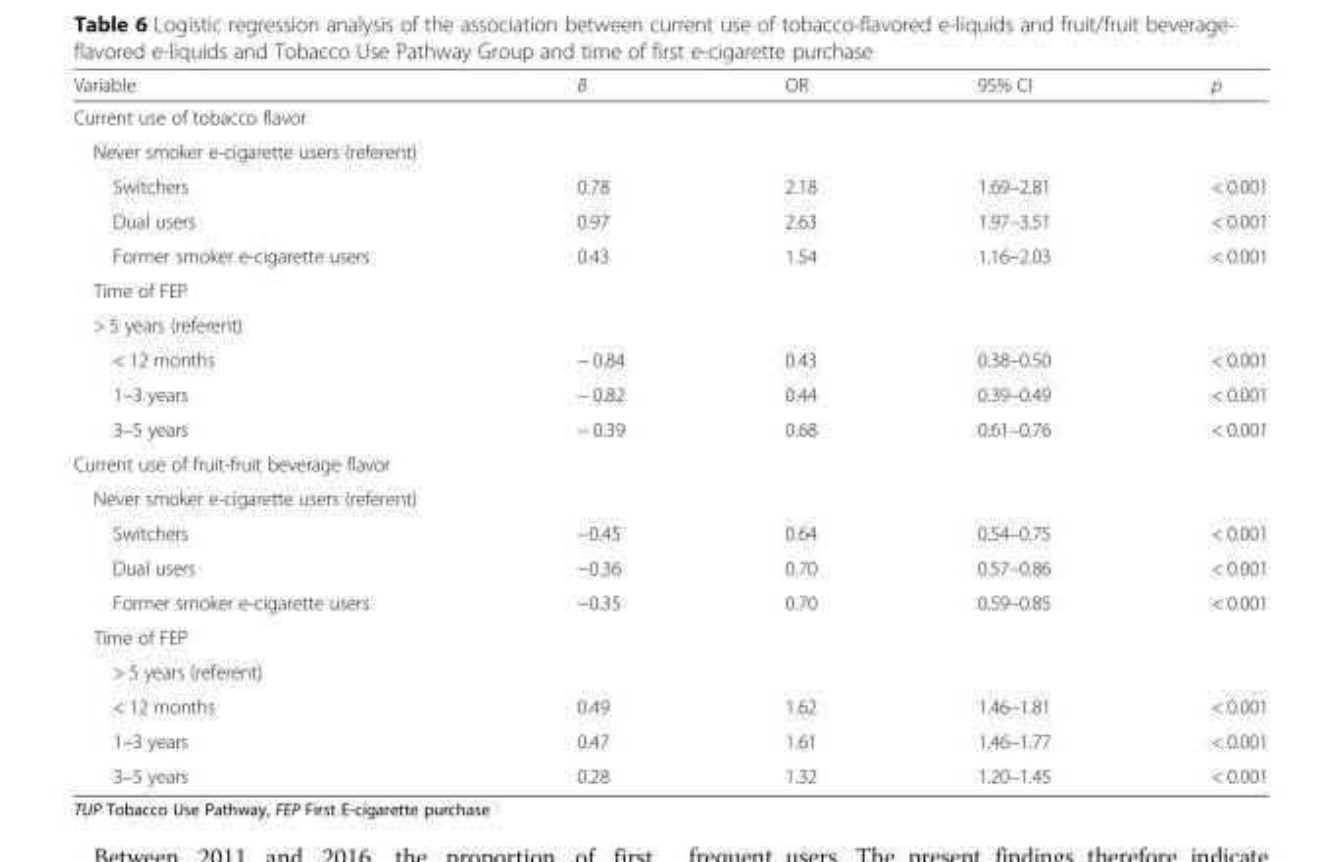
<table><thead><tr><td>Variable</td><td>B</td><td>OR</td><td>95% CI</td><td>p</td></tr></thead><tbody><tr><td colspan="5">Current use of tobacco flavor</td></tr><tr><td colspan="5">Never smoker e-cigarette users (referent)</td></tr><tr><td>Switchers</td><td>0.78</td><td>2.18</td><td>1.69–2.81</td><td>&lt; 0.001</td></tr><tr><td>Dual users</td><td>0.97</td><td>2.63</td><td>1.97–3.51</td><td>&lt; 0.001</td></tr><tr><td>Former smoker e-cigarette users</td><td>0.43</td><td>1.54</td><td>1.16–2.03</td><td>&lt; 0.001</td></tr><tr><td colspan="5">Time of FEP</td></tr><tr><td colspan="5">&gt; 5 years (referent)</td></tr><tr><td>&lt; 12 months</td><td>− 0.84</td><td>0.43</td><td>0.38–0.50</td><td>&lt; 0.001</td></tr><tr><td>1–3 years</td><td>− 0.82</td><td>0.44</td><td>0.39–0.49</td><td>&lt; 0.001</td></tr><tr><td>3–5 years</td><td>− 0.39</td><td>0.68</td><td>0.61–0.76</td><td>&lt; 0.001</td></tr><tr><td colspan="5">Current use of fruit-fruit beverage flavor</td></tr><tr><td colspan="5">Never smoker e-cigarette users (referent)</td></tr><tr><td>Switchers</td><td>−0.45</td><td>0.64</td><td>0.54–0.75</td><td>&lt; 0.001</td></tr><tr><td>Dual users</td><td>−0.36</td><td>0.70</td><td>0.57–0.86</td><td>&lt; 0.001</td></tr><tr><td>Former smoker e-cigarette users</td><td>−0.35</td><td>0.70</td><td>0.59–0.85</td><td>&lt; 0.001</td></tr><tr><td colspan="5">Time of FEP</td></tr><tr><td colspan="5">&gt; 5 years (referent)</td></tr><tr><td>&lt; 12 months</td><td>0.49</td><td>1.62</td><td>1.46–1.81</td><td>&lt; 0.001</td></tr><tr><td>1–3 years</td><td>0.47</td><td>1.61</td><td>1.46–1.77</td><td>&lt; 0.001</td></tr><tr><td>3–5 years</td><td>0.28</td><td>1.32</td><td>1.20–1.45</td><td>&lt; 0.001</td></tr></tbody></table>